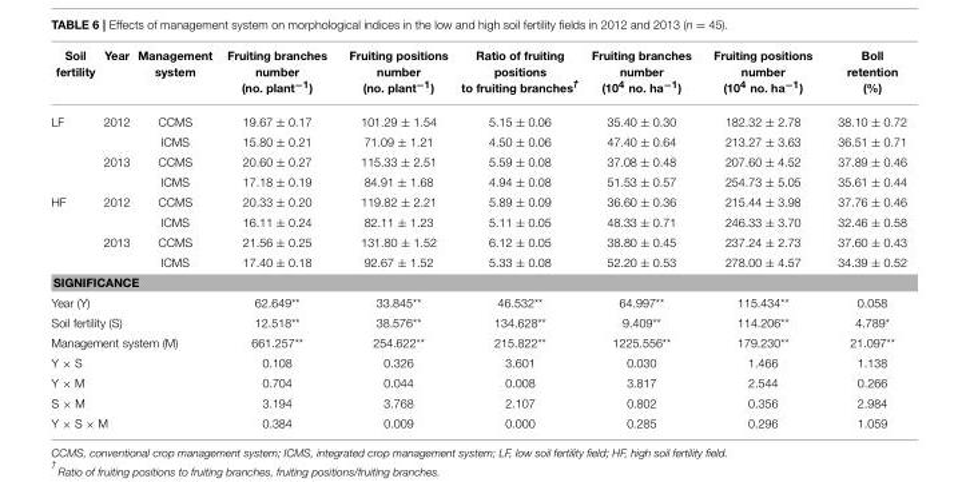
<table><thead><tr><td>Soil fertility</td><td>Year</td><td>Management system</td><td>Fruiting branches number (no. plant<sup>−1</sup>)</td><td>Fruiting positions number (no. plant<sup>−1</sup>)</td><td>Ratio of fruiting positions to fruiting branches<sup>†</sup></td><td>Fruiting branches number (10<sup>4</sup> no. ha<sup>−1</sup>)</td><td>Fruiting positions number (10<sup>4</sup> no. ha<sup>−1</sup>)</td><td>Boll retention (%)</td></tr></thead><tbody><tr><td rowspan="4">LF</td><td>2012</td><td>CCMS</td><td>19.67 ± 0.17</td><td>101.29 ± 1.54</td><td>5.15 ± 0.06</td><td>35.40 ± 0.30</td><td>182.32 ± 2.78</td><td>38.10 ± 0.72</td></tr><tr><td></td><td>ICMS</td><td>15.80 ± 0.21</td><td>71.09 ± 1.21</td><td>4.50 ± 0.06</td><td>47.40 ± 0.64</td><td>213.27 ± 3.63</td><td>36.51 ± 0.71</td></tr><tr><td>2013</td><td>CCMS</td><td>20.60 ± 0.27</td><td>115.33 ± 2.51</td><td>5.59 ± 0.08</td><td>37.08 ± 0.48</td><td>207.60 ± 4.52</td><td>37.89 ± 0.46</td></tr><tr><td></td><td>ICMS</td><td>17.18 ± 0.19</td><td>84.91 ± 1.68</td><td>4.94 ± 0.08</td><td>51.53 ± 0.57</td><td>254.73 ± 5.05</td><td>35.61 ± 0.44</td></tr><tr><td rowspan="4">HF</td><td>2012</td><td>CCMS</td><td>20.33 ± 0.20</td><td>119.82 ± 2.21</td><td>5.89 ± 0.09</td><td>36.60 ± 0.36</td><td>215.44 ± 3.98</td><td>37.76 ± 0.46</td></tr><tr><td></td><td>ICMS</td><td>16.11 ± 0.24</td><td>82.11 ± 1.23</td><td>5.11 ± 0.05</td><td>48.33 ± 0.71</td><td>246.33 ± 3.70</td><td>32.46 ± 0.58</td></tr><tr><td>2013</td><td>CCMS</td><td>21.56 ± 0.25</td><td>131.80 ± 1.52</td><td>6.12 ± 0.05</td><td>38.80 ± 0.45</td><td>237.24 ± 2.73</td><td>37.60 ± 0.43</td></tr><tr><td></td><td>ICMS</td><td>17.40 ± 0.18</td><td>92.67 ± 1.52</td><td>5.33 ± 0.08</td><td>52.20 ± 0.53</td><td>278.00 ± 4.57</td><td>34.39 ± 0.52</td></tr><tr><td colspan="9">SIGNIFICANCE</td></tr><tr><td colspan="3">Year (Y)</td><td>62.649**</td><td>33.845**</td><td>46.532**</td><td>64.997**</td><td>115.434**</td><td>0.058</td></tr><tr><td colspan="3">Soil fertility (S)</td><td>12.518**</td><td>38.576**</td><td>134.628**</td><td>9.409**</td><td>114.206**</td><td>4.789*</td></tr><tr><td colspan="3">Management system (M)</td><td>661.257**</td><td>254.622**</td><td>215.822**</td><td>1225.556**</td><td>179.230**</td><td>21.097**</td></tr><tr><td colspan="3">Y × S</td><td>0.108</td><td>0.326</td><td>3.601</td><td>0.030</td><td>1.466</td><td>1.138</td></tr><tr><td colspan="3">Y × M</td><td>0.704</td><td>0.044</td><td>0.008</td><td>3.817</td><td>2.544</td><td>0.266</td></tr><tr><td colspan="3">S × M</td><td>3.194</td><td>3.768</td><td>2.107</td><td>0.802</td><td>0.356</td><td>2.984</td></tr><tr><td colspan="3">Y × S × M</td><td>0.384</td><td>0.009</td><td>0.000</td><td>0.285</td><td>0.296</td><td>1.059</td></tr></tbody></table>